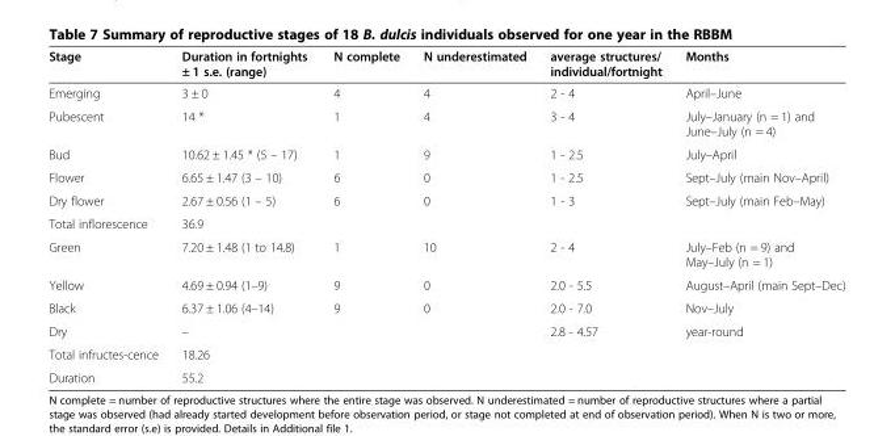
<table><thead><tr><td>Stage</td><td>Duration in fortnights ± 1 s.e. (range)</td><td>N complete</td><td>N underestimated</td><td>average structures/ individual/fortnight</td><td>Months</td></tr></thead><tbody><tr><td>Emerging</td><td>3 ± 0</td><td>4</td><td>4</td><td>2 - 4</td><td>April–June</td></tr><tr><td>Pubescent</td><td>14 *</td><td>1</td><td>4</td><td>3 - 4</td><td>July–January (n = 1) and June–July (n = 4)</td></tr><tr><td>Bud</td><td>10.62 ± 1.45 * (5 – 17)</td><td>1</td><td>9</td><td>1 - 2.5</td><td>July–April</td></tr><tr><td>Flower</td><td>6.65 ± 1.47 (3 – 10)</td><td>6</td><td>0</td><td>1 - 2.5</td><td>Sept–July (main Nov–April)</td></tr><tr><td>Dry flower</td><td>2.67 ± 0.56 (1 – 5)</td><td>6</td><td>0</td><td>1 - 3</td><td>Sept–July (main Feb–May)</td></tr><tr><td>Total inflorescence</td><td>36.9</td><td></td><td></td><td></td><td></td></tr><tr><td>Green</td><td>7.20 ± 1.48 (1 to 14.8)</td><td>1</td><td>10</td><td>2 - 4</td><td>July–Feb (n = 9) and May–July (n = 1)</td></tr><tr><td>Yellow</td><td>4.69 ± 0.94 (1–9)</td><td>9</td><td>0</td><td>2.0 - 5.5</td><td>August–April (main Sept–Dec)</td></tr><tr><td>Black</td><td>6.37 ± 1.06 (4–14)</td><td>9</td><td>0</td><td>2.0 - 7.0</td><td>Nov–July</td></tr><tr><td>Dry</td><td>–</td><td></td><td></td><td>2.8 - 4.57</td><td>year-round</td></tr><tr><td>Total infructes-cence</td><td>18.26</td><td></td><td></td><td></td><td></td></tr><tr><td>Duration</td><td>55.2</td><td></td><td></td><td></td><td></td></tr></tbody></table>